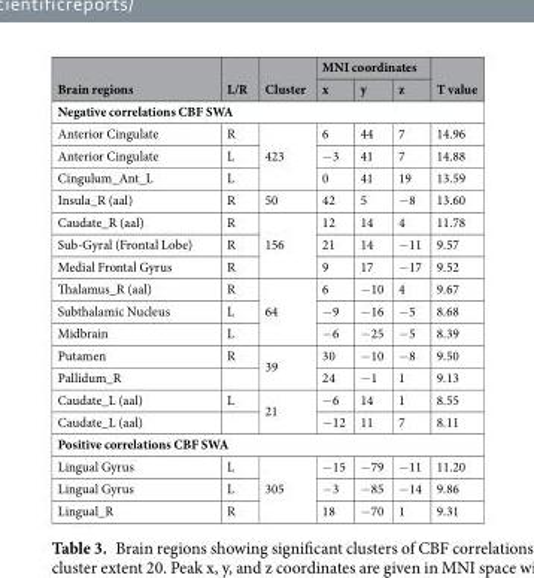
<table><thead><tr><td rowspan="2">Brain regions</td><td rowspan="2">L/R</td><td rowspan="2">Cluster</td><td colspan="3">MNI coordinates</td><td rowspan="2">T value</td></tr><tr><td>x</td><td>y</td><td>z</td></tr></thead><tbody><tr><td colspan="7">Negative correlations CBF SWA</td></tr><tr><td>Anterior Cingulate</td><td>R</td><td rowspan="3">423</td><td>6</td><td>44</td><td>7</td><td>14.96</td></tr><tr><td>Anterior Cingulate</td><td>L</td><td>−3</td><td>41</td><td>7</td><td>14.88</td></tr><tr><td>Cingulum_Ant_L</td><td>L</td><td>0</td><td>41</td><td>19</td><td>13.59</td></tr><tr><td>Insula_R (aal)</td><td>R</td><td>50</td><td>42</td><td>5</td><td>−8</td><td>13.60</td></tr><tr><td>Caudate_R (aal)</td><td>R</td><td rowspan="3">156</td><td>12</td><td>14</td><td>4</td><td>11.78</td></tr><tr><td>Sub-Gyral (Frontal Lobe)</td><td>R</td><td>21</td><td>14</td><td>−11</td><td>9.57</td></tr><tr><td>Medial Frontal Gyrus</td><td>R</td><td>9</td><td>17</td><td>−17</td><td>9.52</td></tr><tr><td>Thalamus_R (aal)</td><td>R</td><td rowspan="3">64</td><td>6</td><td>−10</td><td>4</td><td>9.67</td></tr><tr><td>Subthalamic Nucleus</td><td>L</td><td>−9</td><td>−16</td><td>−5</td><td>8.68</td></tr><tr><td>Midbrain</td><td>L</td><td>−6</td><td>−25</td><td>−5</td><td>8.39</td></tr><tr><td>Putamen</td><td>R</td><td rowspan="2">39</td><td>30</td><td>−10</td><td>−8</td><td>9.50</td></tr><tr><td>Pallidum_R</td><td></td><td>24</td><td>−1</td><td>1</td><td>9.13</td></tr><tr><td>Caudate_L (aal)</td><td>L</td><td rowspan="2">21</td><td>−6</td><td>14</td><td>1</td><td>8.55</td></tr><tr><td>Caudate_L (aal)</td><td></td><td>−12</td><td>11</td><td>7</td><td>8.11</td></tr><tr><td colspan="7">Positive correlations CBF SWA</td></tr><tr><td>Lingual Gyrus</td><td>L</td><td rowspan="3">305</td><td>−15</td><td>−79</td><td>−11</td><td>11.20</td></tr><tr><td>Lingual Gyrus</td><td>L</td><td>−3</td><td>−85</td><td>−14</td><td>9.86</td></tr><tr><td>Lingual_R</td><td>R</td><td>18</td><td>−70</td><td>1</td><td>9.31</td></tr></tbody></table>